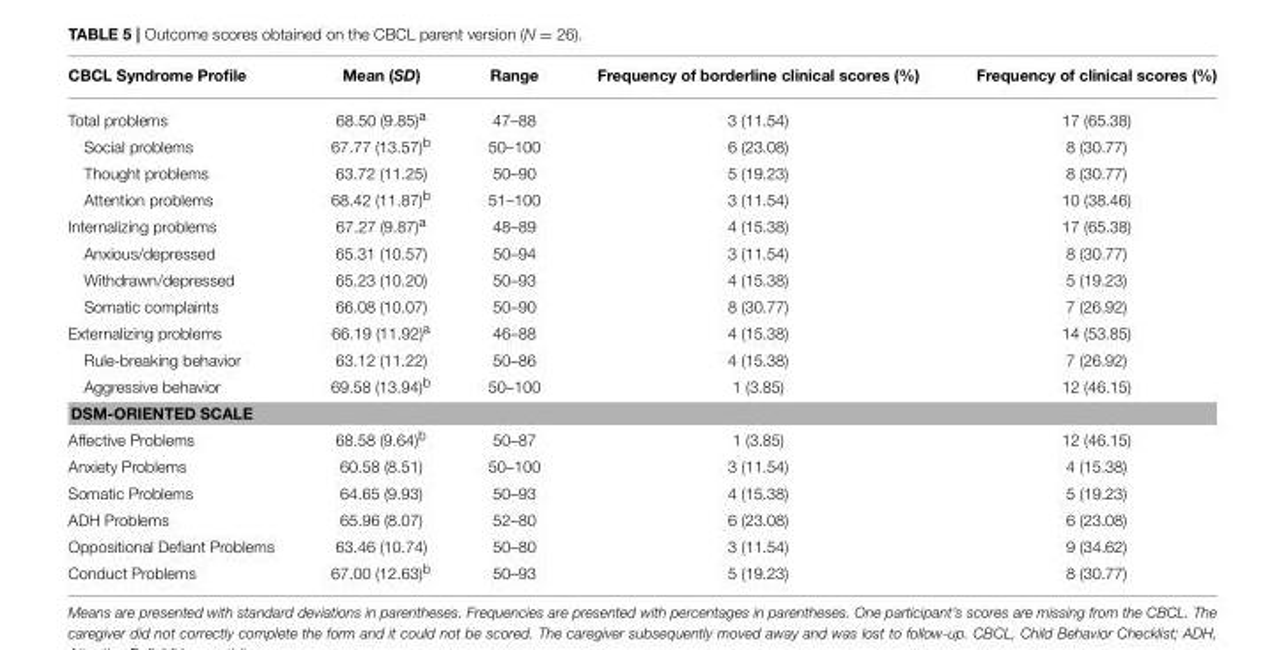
<table><thead><tr><td>CBCL Syndrome Profile</td><td>Mean (SD)</td><td>Range</td><td>Frequency of borderline clinical scores (%)</td><td>Frequency of clinical scores (%)</td></tr></thead><tbody><tr><td>Total problems</td><td>68.50 (9.85)<sup>a</sup></td><td>47–88</td><td>3 (11.54)</td><td>17 (65.38)</td></tr><tr><td>Social problems</td><td>67.77 (13.57)<sup>b</sup></td><td>50–100</td><td>6 (23.08)</td><td>8 (30.77)</td></tr><tr><td>Thought problems</td><td>63.72 (11.25)</td><td>50–90</td><td>5 (19.23)</td><td>8 (30.77)</td></tr><tr><td>Attention problems</td><td>68.42 (11.87)<sup>b</sup></td><td>51–100</td><td>3 (11.54)</td><td>10 (38.46)</td></tr><tr><td>Internalizing problems</td><td>67.27 (9.87)<sup>a</sup></td><td>48–89</td><td>4 (15.38)</td><td>17 (65.38)</td></tr><tr><td>Anxious/depressed</td><td>65.31 (10.57)</td><td>50–94</td><td>3 (11.54)</td><td>8 (30.77)</td></tr><tr><td>Withdrawn/depressed</td><td>65.23 (10.20)</td><td>50–93</td><td>4 (15.38)</td><td>5 (19.23)</td></tr><tr><td>Somatic complaints</td><td>66.08 (10.07)</td><td>50–90</td><td>8 (30.77)</td><td>7 (26.92)</td></tr><tr><td>Externalizing problems</td><td>66.19 (11.92)<sup>a</sup></td><td>46–88</td><td>4 (15.38)</td><td>14 (53.85)</td></tr><tr><td>Rule-breaking behavior</td><td>63.12 (11.22)</td><td>50–86</td><td>4 (15.38)</td><td>7 (26.92)</td></tr><tr><td>Aggressive behavior</td><td>69.58 (13.94)<sup>b</sup></td><td>50–100</td><td>1 (3.85)</td><td>12 (46.15)</td></tr><tr><td colspan="5">DSM-ORIENTED SCALE</td></tr><tr><td>Affective Problems</td><td>68.58 (9.64)<sup>b</sup></td><td>50–87</td><td>1 (3.85)</td><td>12 (46.15)</td></tr><tr><td>Anxiety Problems</td><td>60.58 (8.51)</td><td>50–100</td><td>3 (11.54)</td><td>4 (15.38)</td></tr><tr><td>Somatic Problems</td><td>64.65 (9.93)</td><td>50–93</td><td>4 (15.38)</td><td>5 (19.23)</td></tr><tr><td>ADH Problems</td><td>65.96 (8.07)</td><td>52–80</td><td>6 (23.08)</td><td>6 (23.08)</td></tr><tr><td>Oppositional Defiant Problems</td><td>63.46 (10.74)</td><td>50–80</td><td>3 (11.54)</td><td>9 (34.62)</td></tr><tr><td>Conduct Problems</td><td>67.00 (12.63)<sup>b</sup></td><td>50–93</td><td>5 (19.23)</td><td>8 (30.77)</td></tr></tbody></table>